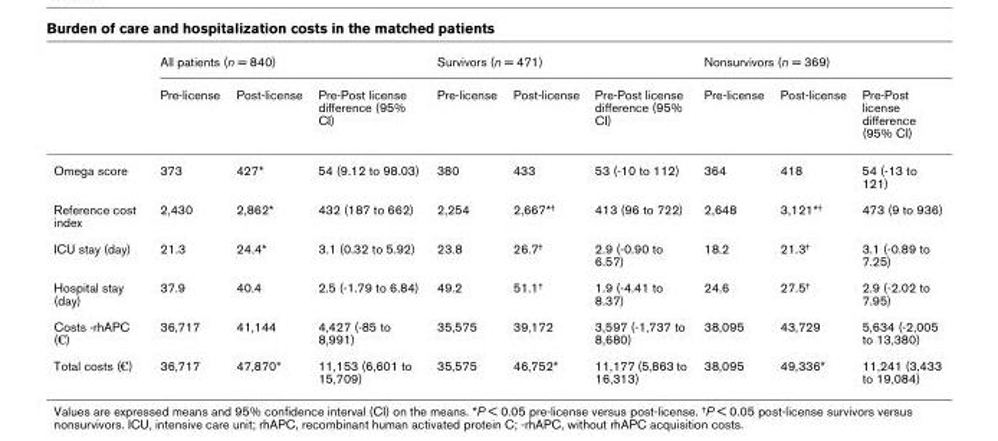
<table><thead><tr><td rowspan="2"></td><td colspan="3">All patients (n = 840)</td><td colspan="3">Survivors (n = 471)</td><td colspan="3">Nonsurvivors (n = 369)</td></tr><tr><td>Pre-license</td><td>Post-license</td><td>Pre-Post license difference (95% CI)</td><td>Pre-license</td><td>Post-license</td><td>Pre-Post license difference (95% CI)</td><td>Pre-license</td><td>Post-license</td><td>Pre-Post license difference (95% CI)</td></tr></thead><tbody><tr><td>Omega score</td><td>373</td><td>427*</td><td>54 (9.12 to 98.03)</td><td>380</td><td>433</td><td>53 (-10 to 112)</td><td>364</td><td>418</td><td>54 (-13 to 121)</td></tr><tr><td>Reference cost index</td><td>2,430</td><td>2,862*</td><td>432 (187 to 662)</td><td>2,254</td><td>2,667*<sup>†</sup></td><td>413 (96 to 722)</td><td>2,648</td><td>3,121*<sup>†</sup></td><td>473 (9 to 936)</td></tr><tr><td>ICU stay (day)</td><td>21.3</td><td>24.4*</td><td>3.1 (0.32 to 5.92)</td><td>23.8</td><td>26.7<sup>†</sup></td><td>2.9 (-0.90 to 6.57)</td><td>18.2</td><td>21.3<sup>†</sup></td><td>3.1 (-0.89 to 7.25)</td></tr><tr><td>Hospital stay (day)</td><td>37.9</td><td>40.4</td><td>2.5 (-1.79 to 6.84)</td><td>49.2</td><td>51.1<sup>†</sup></td><td>1.9 (-4.41 to 8.37)</td><td>24.6</td><td>27.5<sup>†</sup></td><td>2.9 (-2.02 to 7.95)</td></tr><tr><td>Costs -rhAPC (€)</td><td>36,717</td><td>41,144</td><td>4,427 (-85 to 8,991)</td><td>35,575</td><td>39,172</td><td>3,597 (-1,737 to 8,680)</td><td>38,095</td><td>43,729</td><td>5,634 (-2,005 to 13,380)</td></tr><tr><td>Total costs (€)</td><td>36,717</td><td>47,870*</td><td>11,153 (6,601 to 15,709)</td><td>35,575</td><td>46,752*</td><td>11,177 (5,863 to 16,313)</td><td>38,095</td><td>49,336*</td><td>11,241 (3,433 to 19,084)</td></tr></tbody></table>